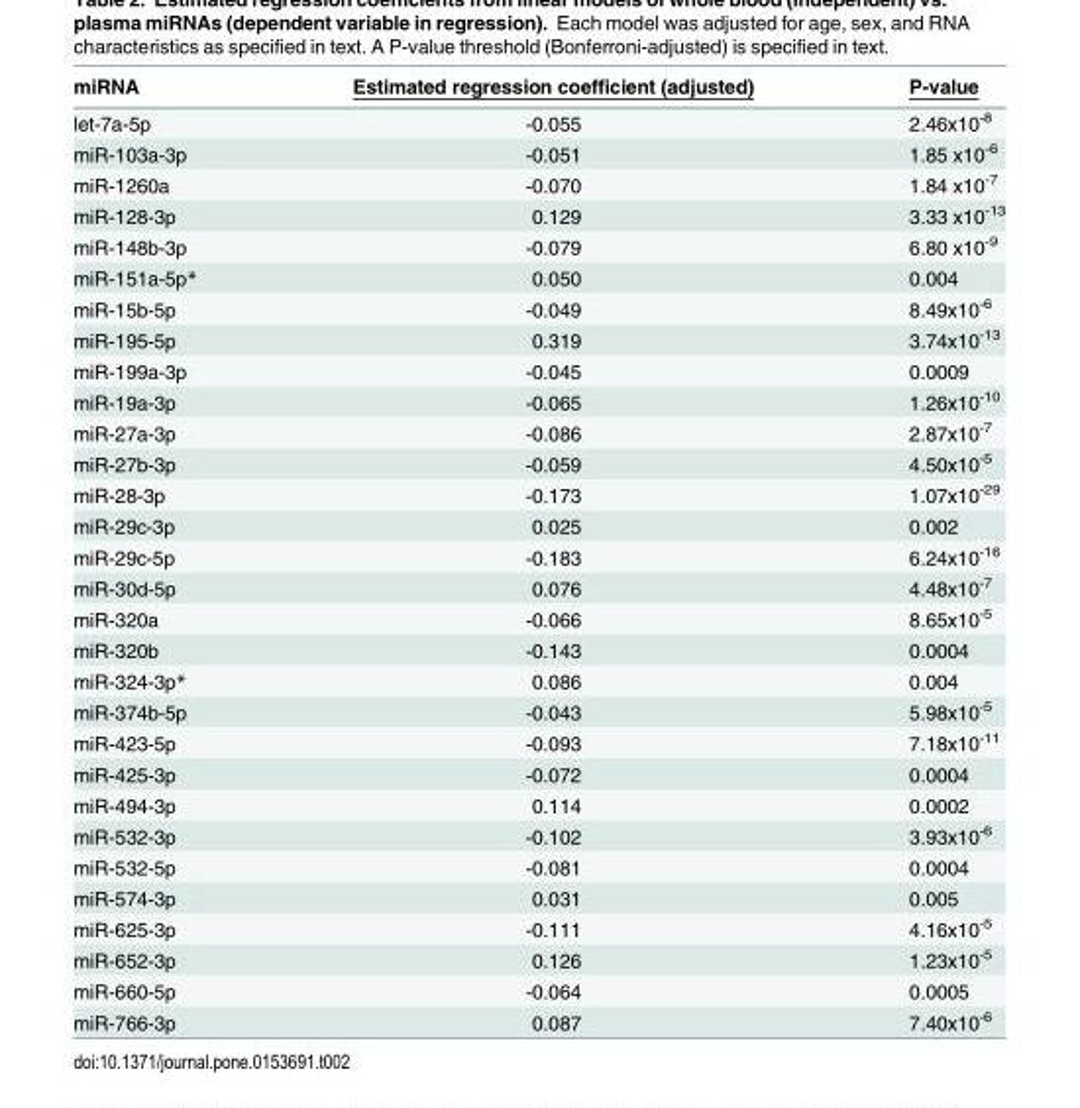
<table><thead><tr><td>miRNA</td><td>Estimated regression coefficient (adjusted)</td><td>P-value</td></tr></thead><tbody><tr><td>let-7a-5p</td><td>-0.055</td><td>2.46x10<sup>-8</sup></td></tr><tr><td>miR-103a-3p</td><td>-0.051</td><td>1.85 x10<sup>-6</sup></td></tr><tr><td>miR-1260a</td><td>-0.070</td><td>1.84 x10<sup>-7</sup></td></tr><tr><td>miR-128-3p</td><td>0.129</td><td>3.33 x10<sup>-13</sup></td></tr><tr><td>miR-148b-3p</td><td>-0.079</td><td>6.80 x10<sup>-9</sup></td></tr><tr><td>miR-151a-5p*</td><td>0.050</td><td>0.004</td></tr><tr><td>miR-15b-5p</td><td>-0.049</td><td>8.49x10<sup>-6</sup></td></tr><tr><td>miR-195-5p</td><td>0.319</td><td>3.74x10<sup>-13</sup></td></tr><tr><td>miR-199a-3p</td><td>-0.045</td><td>0.0009</td></tr><tr><td>miR-19a-3p</td><td>-0.065</td><td>1.26x10<sup>-10</sup></td></tr><tr><td>miR-27a-3p</td><td>-0.086</td><td>2.87x10<sup>-7</sup></td></tr><tr><td>miR-27b-3p</td><td>-0.059</td><td>4.50x10<sup>-5</sup></td></tr><tr><td>miR-28-3p</td><td>-0.173</td><td>1.07x10<sup>-29</sup></td></tr><tr><td>miR-29c-3p</td><td>0.025</td><td>0.002</td></tr><tr><td>miR-29c-5p</td><td>-0.183</td><td>6.24x10<sup>-16</sup></td></tr><tr><td>miR-30d-5p</td><td>0.076</td><td>4.48x10<sup>-7</sup></td></tr><tr><td>miR-320a</td><td>-0.066</td><td>8.65x10<sup>-5</sup></td></tr><tr><td>miR-320b</td><td>-0.143</td><td>0.0004</td></tr><tr><td>miR-324-3p*</td><td>0.086</td><td>0.004</td></tr><tr><td>miR-374b-5p</td><td>-0.043</td><td>5.98x10<sup>-5</sup></td></tr><tr><td>miR-423-5p</td><td>-0.093</td><td>7.18x10<sup>-11</sup></td></tr><tr><td>miR-425-3p</td><td>-0.072</td><td>0.0004</td></tr><tr><td>miR-494-3p</td><td>0.114</td><td>0.0002</td></tr><tr><td>miR-532-3p</td><td>-0.102</td><td>3.93x10<sup>-6</sup></td></tr><tr><td>miR-532-5p</td><td>-0.081</td><td>0.0004</td></tr><tr><td>miR-574-3p</td><td>0.031</td><td>0.005</td></tr><tr><td>miR-625-3p</td><td>-0.111</td><td>4.16x10<sup>-5</sup></td></tr><tr><td>miR-652-3p</td><td>0.126</td><td>1.23x10<sup>-5</sup></td></tr><tr><td>miR-660-5p</td><td>-0.064</td><td>0.0005</td></tr><tr><td>miR-766-3p</td><td>0.087</td><td>7.40x10<sup>-6</sup></td></tr></tbody></table>